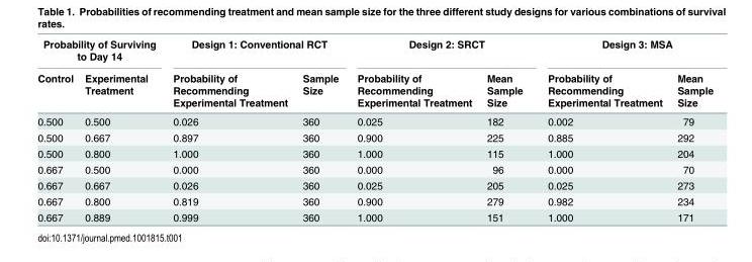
<table><thead><tr><td colspan="2">Probability of Surviving to Day 14</td><td colspan="2">Design 1: Conventional RCT</td><td colspan="2">Design 2: SRCT</td><td colspan="2">Design 3: MSA</td></tr><tr><td>Control</td><td>Experimental Treatment</td><td>Probability of Recommending Experimental Treatment</td><td>Sample Size</td><td>Probability of Recommending Experimental Treatment</td><td>Mean Sample Size</td><td>Probability of Recommending Experimental Treatment</td><td>Mean Sample Size</td></tr></thead><tbody><tr><td>0.500</td><td>0.500</td><td>0.026</td><td>360</td><td>0.025</td><td>182</td><td>0.002</td><td>79</td></tr><tr><td>0.500</td><td>0.667</td><td>0.897</td><td>360</td><td>0.900</td><td>225</td><td>0.885</td><td>292</td></tr><tr><td>0.500</td><td>0.800</td><td>1.000</td><td>360</td><td>1.000</td><td>115</td><td>1.000</td><td>204</td></tr><tr><td>0.667</td><td>0.500</td><td>0.000</td><td>360</td><td>0.000</td><td>96</td><td>0.000</td><td>70</td></tr><tr><td>0.667</td><td>0.667</td><td>0.026</td><td>360</td><td>0.025</td><td>205</td><td>0.025</td><td>273</td></tr><tr><td>0.667</td><td>0.800</td><td>0.819</td><td>360</td><td>0.900</td><td>279</td><td>0.982</td><td>234</td></tr><tr><td>0.667</td><td>0.889</td><td>0.999</td><td>360</td><td>1.000</td><td>151</td><td>1.000</td><td>171</td></tr></tbody></table>